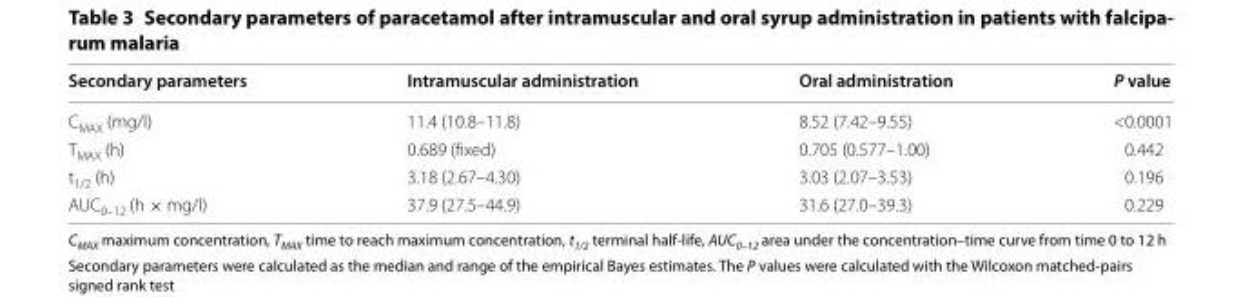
<table><thead><tr><td>Secondary parameters</td><td>Intramuscular administration</td><td>Oral administration</td><td>P value</td></tr></thead><tbody><tr><td>C<sub>MAX</sub> (mg/l)</td><td>11.4 (10.8–11.8)</td><td>8.52 (7.42–9.55)</td><td>&lt;0.0001</td></tr><tr><td>T<sub>MAX</sub> (h)</td><td>0.689 (fixed)</td><td>0.705 (0.577–1.00)</td><td>0.442</td></tr><tr><td>t<sub>1/2</sub> (h)</td><td>3.18 (2.67–4.30)</td><td>3.03 (2.07–3.53)</td><td>0.196</td></tr><tr><td>AUC<sub>0–12</sub> (h × mg/l)</td><td>37.9 (27.5–44.9)</td><td>31.6 (27.0–39.3)</td><td>0.229</td></tr></tbody></table>